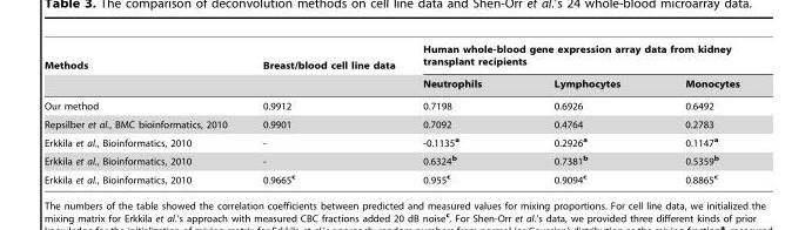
<table><thead><tr><td rowspan="2">Methods</td><td rowspan="2">Breast/blood cell line data</td><td colspan="3">Human whole-blood gene expression array data from kidney transplant recipients</td></tr><tr><td>Neutrophils</td><td>Lymphocytes</td><td>Monocytes</td></tr></thead><tbody><tr><td>Our method</td><td>0.9912</td><td>0.7198</td><td>0.6926</td><td>0.6492</td></tr><tr><td>Repsilber et al., BMC bioinformatics, 2010</td><td>0.9901</td><td>0.7092</td><td>0.4764</td><td>0.2783</td></tr><tr><td>Erkkila et al., Bioinformatics, 2010</td><td>-</td><td>-0.1135<sup>a</sup></td><td>0.2926<sup>a</sup></td><td>0.1147<sup>a</sup></td></tr><tr><td>Erkkila et al., Bioinformatics, 2010</td><td>-</td><td>0.6324<sup>b</sup></td><td>0.7381<sup>b</sup></td><td>0.5359<sup>b</sup></td></tr><tr><td>Erkkila et al., Bioinformatics, 2010</td><td>0.9665<sup>c</sup></td><td>0.955<sup>c</sup></td><td>0.9094<sup>c</sup></td><td>0.8865<sup>c</sup></td></tr></tbody></table>